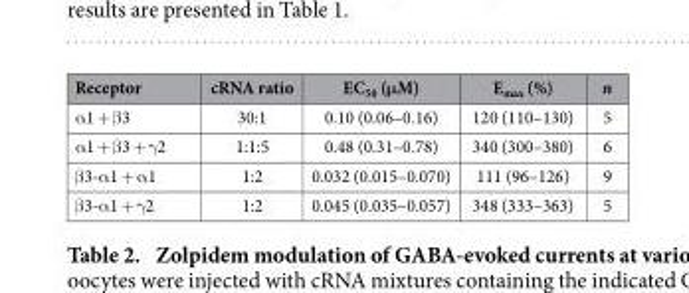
<table><thead><tr><td>Receptor</td><td>cRNA ratio</td><td>EC<sub>50</sub> (μM)</td><td>E<sub>max</sub> (%)</td><td>n</td></tr></thead><tbody><tr><td>α1 + β3</td><td>30:1</td><td>0.10 (0.06–0.16)</td><td>120 (110–130)</td><td>5</td></tr><tr><td>α1 + β3 + γ2</td><td>1:1:5</td><td>0.48 (0.31–0.78)</td><td>340 (300–380)</td><td>6</td></tr><tr><td>β3-α1 + α1</td><td>1:2</td><td>0.032 (0.015–0.070)</td><td>111 (96–126)</td><td>9</td></tr><tr><td>β3-α1 + γ2</td><td>1:2</td><td>0.045 (0.035–0.057)</td><td>348 (333–363)</td><td>5</td></tr></tbody></table>